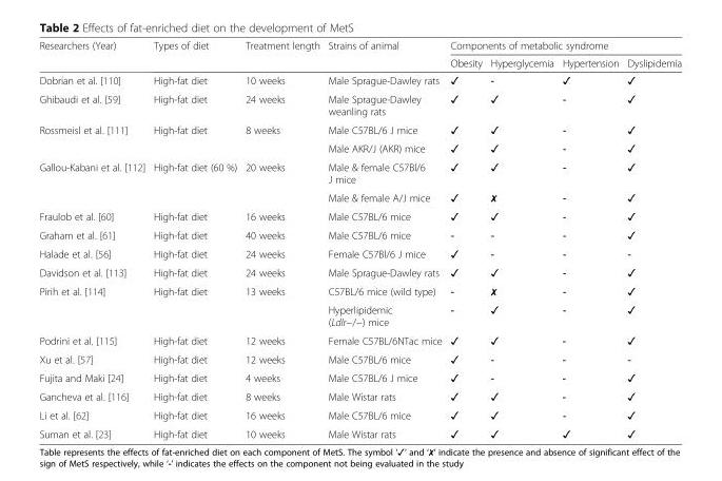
<table><thead><tr><td rowspan="2">Researchers (Year)</td><td rowspan="2">Types of diet</td><td rowspan="2">Treatment length</td><td rowspan="2">Strains of animal</td><td colspan="4">Components of metabolic syndrome</td></tr><tr><td>Obesity</td><td>Hyperglycemia</td><td>Hypertension</td><td>Dyslipidemia</td></tr></thead><tbody><tr><td>Dobrian et al. [110]</td><td>High-fat diet</td><td>10 weeks</td><td>Male Sprague-Dawley rats</td><td>✓</td><td>-</td><td>✓</td><td>✓</td></tr><tr><td>Ghibaudi et al. [59]</td><td>High-fat diet</td><td>24 weeks</td><td>Male Sprague-Dawley weanling rats</td><td>✓</td><td>✓</td><td>-</td><td>✓</td></tr><tr><td rowspan="2">Rossmeisl et al. [111]</td><td rowspan="2">High-fat diet</td><td rowspan="2">8 weeks</td><td>Male C57BL/6 J mice</td><td>✓</td><td>✓</td><td>-</td><td>✓</td></tr><tr><td>Male AKR/J (AKR) mice</td><td>✓</td><td>✓</td><td>-</td><td>✓</td></tr><tr><td rowspan="2">Gallou-Kabani et al. [112]</td><td rowspan="2">High-fat diet (60 %)</td><td rowspan="2">20 weeks</td><td>Male &amp; female C57Bl/6 J mice</td><td>✓</td><td>✓</td><td>-</td><td>✓</td></tr><tr><td>Male &amp; female A/J mice</td><td>✓</td><td>✗</td><td>-</td><td>✓</td></tr><tr><td>Fraulob et al. [60]</td><td>High-fat diet</td><td>16 weeks</td><td>Male C57BL/6 mice</td><td>✓</td><td>✓</td><td>-</td><td>✓</td></tr><tr><td>Graham et al. [61]</td><td>High-fat diet</td><td>40 weeks</td><td>Male C57BL/6 mice</td><td>-</td><td>-</td><td>-</td><td>✓</td></tr><tr><td>Halade et al. [56]</td><td>High-fat diet</td><td>24 weeks</td><td>Female C57Bl/6 J mice</td><td>✓</td><td>-</td><td>-</td><td>-</td></tr><tr><td>Davidson et al. [113]</td><td>High-fat diet</td><td>24 weeks</td><td>Male Sprague-Dawley rats</td><td>✓</td><td>✓</td><td>-</td><td>✓</td></tr><tr><td rowspan="2">Pirih et al. [114]</td><td rowspan="2">High-fat diet</td><td rowspan="2">13 weeks</td><td>C57BL/6 mice (wild type)</td><td>-</td><td>✗</td><td>-</td><td>✓</td></tr><tr><td>Hyperlipidemic (Ldlr−/−) mice</td><td>-</td><td>✓</td><td>-</td><td>✓</td></tr><tr><td>Podrini et al. [115]</td><td>High-fat diet</td><td>12 weeks</td><td>Female C57BL/6NTac mice</td><td>✓</td><td>✓</td><td>-</td><td>✓</td></tr><tr><td>Xu et al. [57]</td><td>High-fat diet</td><td>12 weeks</td><td>Male C57BL/6 mice</td><td>✓</td><td>-</td><td>-</td><td>-</td></tr><tr><td>Fujita and Maki [24]</td><td>High-fat diet</td><td>4 weeks</td><td>Male C57BL/6 J mice</td><td>✓</td><td>-</td><td>-</td><td>✓</td></tr><tr><td>Gancheva et al. [116]</td><td>High-fat diet</td><td>8 weeks</td><td>Male Wistar rats</td><td>✓</td><td>✓</td><td>-</td><td>✓</td></tr><tr><td>Li et al. [62]</td><td>High-fat diet</td><td>16 weeks</td><td>Male C57BL/6 mice</td><td>✓</td><td>✓</td><td>-</td><td>✓</td></tr><tr><td>Suman et al. [23]</td><td>High-fat diet</td><td>10 weeks</td><td>Male Wistar rats</td><td>✓</td><td>✓</td><td>✓</td><td>✓</td></tr></tbody></table>